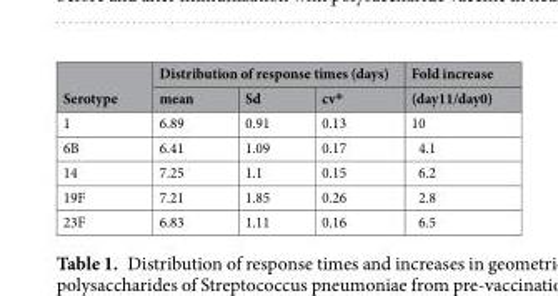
<table><thead><tr><td rowspan="2">Serotype</td><td colspan="3">Distribution of response times (days)</td><td rowspan="2">Fold increase (day11/day0)</td></tr><tr><td>mean</td><td>Sd</td><td>cv*</td></tr></thead><tbody><tr><td>1</td><td>6.89</td><td>0.91</td><td>0.13</td><td>10</td></tr><tr><td>6B</td><td>6.41</td><td>1.09</td><td>0.17</td><td>4.1</td></tr><tr><td>14</td><td>7.25</td><td>1.1</td><td>0.15</td><td>6.2</td></tr><tr><td>19F</td><td>7.21</td><td>1.85</td><td>0.26</td><td>2.8</td></tr><tr><td>23F</td><td>6.83</td><td>1.11</td><td>0.16</td><td>6.5</td></tr></tbody></table>